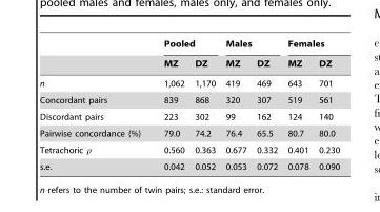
<table><thead><tr><td rowspan="2"></td><td colspan="2">Pooled</td><td colspan="2">Males</td><td colspan="2">Females</td></tr><tr><td>MZ</td><td>DZ</td><td>MZ</td><td>DZ</td><td>MZ</td><td>DZ</td></tr></thead><tbody><tr><td>n</td><td>1,062</td><td>1,170</td><td>419</td><td>469</td><td>643</td><td>701</td></tr><tr><td>Concordant pairs</td><td>839</td><td>868</td><td>320</td><td>307</td><td>519</td><td>561</td></tr><tr><td>Discordant pairs</td><td>223</td><td>302</td><td>99</td><td>162</td><td>124</td><td>140</td></tr><tr><td>Pairwise concordance (%)</td><td>79.0</td><td>74.2</td><td>76.4</td><td>65.5</td><td>80.7</td><td>80.0</td></tr><tr><td>Tetrachoric ρ</td><td>0.560</td><td>0.363</td><td>0.677</td><td>0.332</td><td>0.401</td><td>0.230</td></tr><tr><td>s.e.</td><td>0.042</td><td>0.052</td><td>0.053</td><td>0.072</td><td>0.078</td><td>0.090</td></tr></tbody></table>